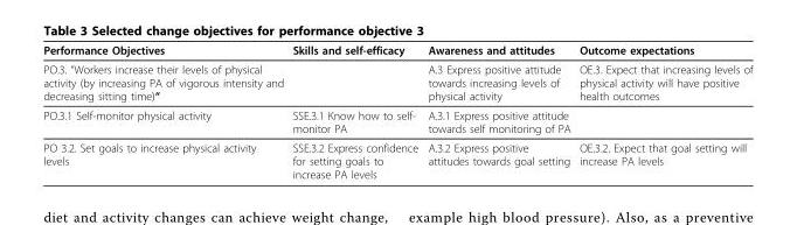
<table><thead><tr><td>Performance Objectives</td><td>Skills and self-efficacy</td><td>Awareness and attitudes</td><td>Outcome expectations</td></tr></thead><tbody><tr><td>PO.3. “Workers increase their levels of physical activity (by increasing PA of vigorous intensity and decreasing sitting time)“</td><td></td><td>A.3 Express positive attitude towards increasing levels of physical activity</td><td>OE.3. Expect that increasing levels of physical activity will have positive health outcomes</td></tr><tr><td>PO.3.1 Self-monitor physical activity</td><td>SSE.3.1 Know how to self- monitor PA</td><td>A.3.1 Express positive attitude towards self monitoring of PA</td><td></td></tr><tr><td>PO 3.2. Set goals to increase physical activity levels</td><td>SSE.3.2 Express confidence for setting goals to increase PA levels</td><td>A.3.2 Express positive attitudes towards goal setting</td><td>OE.3.2. Expect that goal setting will increase PA levels</td></tr></tbody></table>